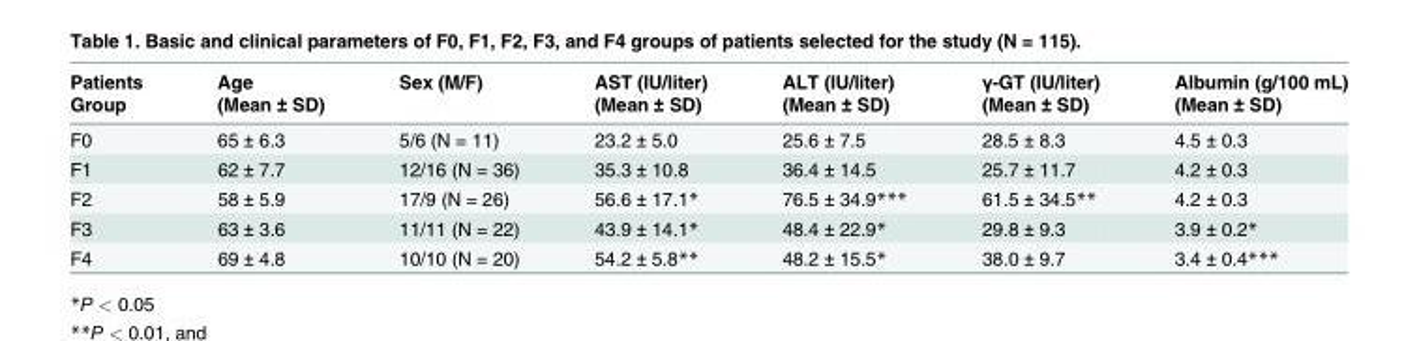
<table><thead><tr><td>Patients Group</td><td>Age (Mean ± SD)</td><td>Sex (M/F)</td><td>AST (IU/liter) (Mean ± SD)</td><td>ALT (IU/liter) (Mean ± SD)</td><td>γ-GT (IU/liter) (Mean ± SD)</td><td>Albumin (g/100 mL) (Mean ± SD)</td></tr></thead><tbody><tr><td>F0</td><td>65 ± 6.3</td><td>5/6 (N = 11)</td><td>23.2 ± 5.0</td><td>25.6 ± 7.5</td><td>28.5 ± 8.3</td><td>4.5 ± 0.3</td></tr><tr><td>F1</td><td>62 ± 7.7</td><td>12/16 (N = 36)</td><td>35.3 ± 10.8</td><td>36.4 ± 14.5</td><td>25.7 ± 11.7</td><td>4.2 ± 0.3</td></tr><tr><td>F2</td><td>58 ± 5.9</td><td>17/9 (N = 26)</td><td>56.6 ± 17.1*</td><td>76.5 ± 34.9***</td><td>61.5 ± 34.5**</td><td>4.2 ± 0.3</td></tr><tr><td>F3</td><td>63 ± 3.6</td><td>11/11 (N = 22)</td><td>43.9 ± 14.1*</td><td>48.4 ± 22.9*</td><td>29.8 ± 9.3</td><td>3.9 ± 0.2*</td></tr><tr><td>F4</td><td>69 ± 4.8</td><td>10/10 (N = 20)</td><td>54.2 ± 5.8**</td><td>48.2 ± 15.5*</td><td>38.0 ± 9.7</td><td>3.4 ± 0.4***</td></tr></tbody></table>